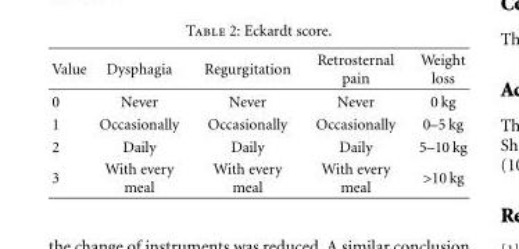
<table><thead><tr><td>Value</td><td>Dysphagia</td><td>Regurgitation</td><td>Retrosternal pain</td><td>Weight loss</td></tr></thead><tbody><tr><td>0</td><td>Never</td><td>Never</td><td>Never</td><td>0 kg</td></tr><tr><td>1</td><td>Occasionally</td><td>Occasionally</td><td>Occasionally</td><td>0–5 kg</td></tr><tr><td>2</td><td>Daily</td><td>Daily</td><td>Daily</td><td>5–10 kg</td></tr><tr><td>3</td><td>With every meal</td><td>With every meal</td><td>With every meal</td><td>&gt;10 kg</td></tr></tbody></table>